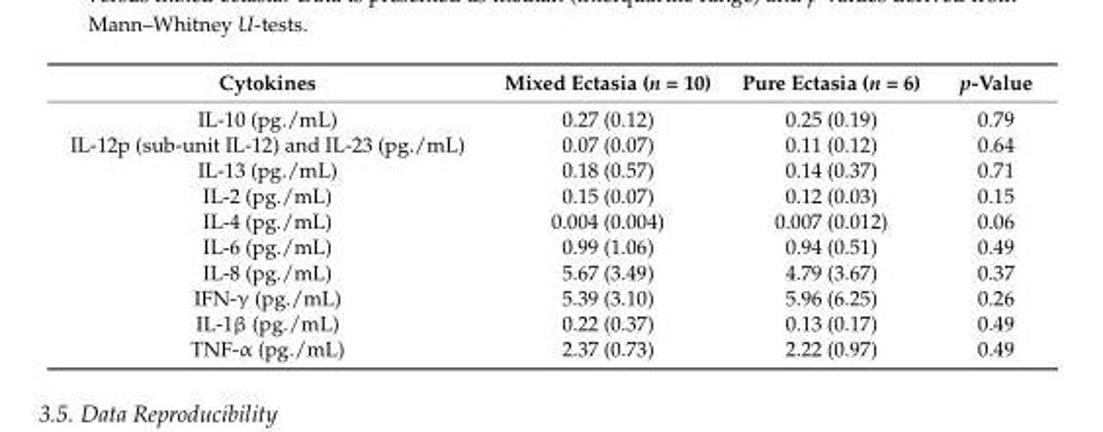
<table><thead><tr><td>Cytokines</td><td>Mixed Ectasia (n = 10)</td><td>Pure Ectasia (n = 6)</td><td>p-Value</td></tr></thead><tbody><tr><td>IL-10 (pg./mL)</td><td>0.27 (0.12)</td><td>0.25 (0.19)</td><td>0.79</td></tr><tr><td>IL-12p (sub-unit IL-12) and IL-23 (pg./mL)</td><td>0.07 (0.07)</td><td>0.11 (0.12)</td><td>0.64</td></tr><tr><td>IL-13 (pg./mL)</td><td>0.18 (0.57)</td><td>0.14 (0.37)</td><td>0.71</td></tr><tr><td>IL-2 (pg./mL)</td><td>0.15 (0.07)</td><td>0.12 (0.03)</td><td>0.15</td></tr><tr><td>IL-4 (pg./mL)</td><td>0.004 (0.004)</td><td>0.007 (0.012)</td><td>0.06</td></tr><tr><td>IL-6 (pg./mL)</td><td>0.99 (1.06)</td><td>0.94 (0.51)</td><td>0.49</td></tr><tr><td>IL-8 (pg./mL)</td><td>5.67 (3.49)</td><td>4.79 (3.67)</td><td>0.37</td></tr><tr><td>IFN-γ (pg./mL)</td><td>5.39 (3.10)</td><td>5.96 (6.25)</td><td>0.26</td></tr><tr><td>IL-1β (pg./mL)</td><td>0.22 (0.37)</td><td>0.13 (0.17)</td><td>0.49</td></tr><tr><td>TNF-α (pg./mL)</td><td>2.37 (0.73)</td><td>2.22 (0.97)</td><td>0.49</td></tr></tbody></table>